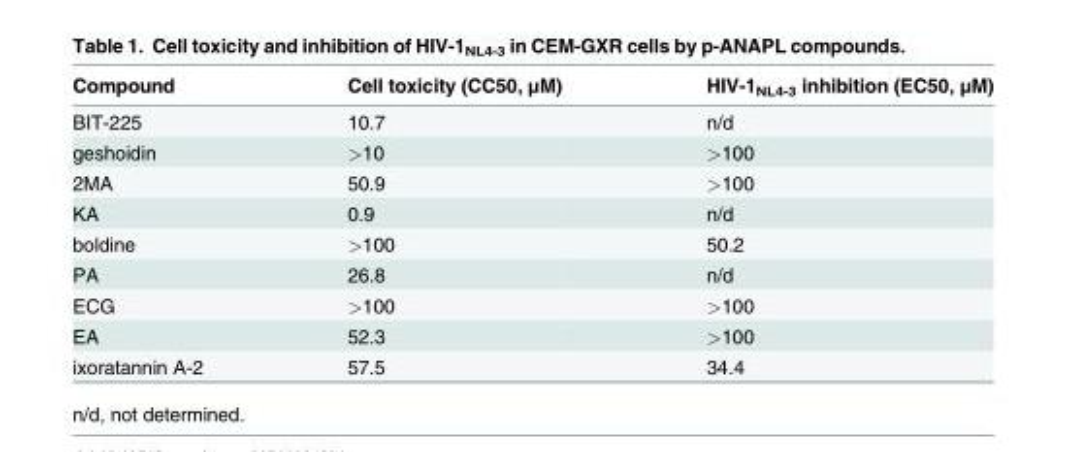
<table><thead><tr><td>Compound</td><td>Cell toxicity (CC50, μM)</td><td>HIV-1<sub>NL4-3</sub> inhibition (EC50, μM)</td></tr></thead><tbody><tr><td>BIT-225</td><td>10.7</td><td>n/d</td></tr><tr><td>geshoidin</td><td>&gt;10</td><td>&gt;100</td></tr><tr><td>2MA</td><td>50.9</td><td>&gt;100</td></tr><tr><td>KA</td><td>0.9</td><td>n/d</td></tr><tr><td>boldine</td><td>&gt;100</td><td>50.2</td></tr><tr><td>PA</td><td>26.8</td><td>n/d</td></tr><tr><td>ECG</td><td>&gt;100</td><td>&gt;100</td></tr><tr><td>EA</td><td>52.3</td><td>&gt;100</td></tr><tr><td>ixoratannin A-2</td><td>57.5</td><td>34.4</td></tr></tbody></table>